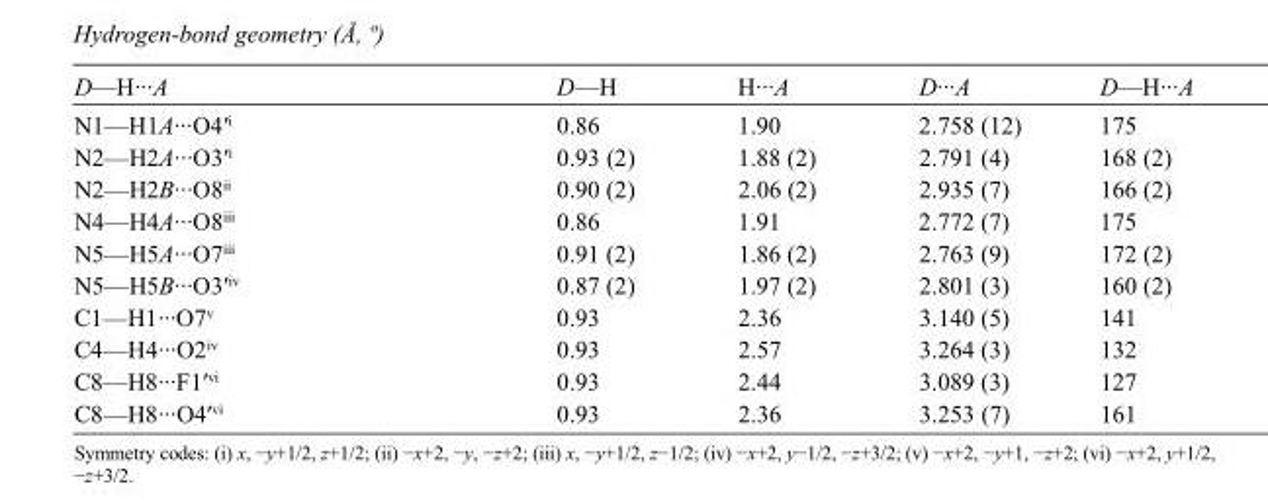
<table><tbody><tr><td>D—H···A</td><td>D—H</td><td>H···A</td><td>D···A</td><td>D—H···A</td></tr><tr><td>N1—H1A···O4′<sup>i</sup></td><td>0.86</td><td>1.90</td><td>2.758 (12)</td><td>175</td></tr><tr><td>N2—H2A···O3′<sup>i</sup></td><td>0.93 (2)</td><td>1.88 (2)</td><td>2.791 (4)</td><td>168 (2)</td></tr><tr><td>N2—H2B···O8<sup>ii</sup></td><td>0.90 (2)</td><td>2.06 (2)</td><td>2.935 (7)</td><td>166 (2)</td></tr><tr><td>N4—H4A···O8<sup>iii</sup></td><td>0.86</td><td>1.91</td><td>2.772 (7)</td><td>175</td></tr><tr><td>N5—H5A···O7<sup>iii</sup></td><td>0.91 (2)</td><td>1.86 (2)</td><td>2.763 (9)</td><td>172 (2)</td></tr><tr><td>N5—H5B···O3′<sup>iv</sup></td><td>0.87 (2)</td><td>1.97 (2)</td><td>2.801 (3)</td><td>160 (2)</td></tr><tr><td>C1—H1···O7<sup>v</sup></td><td>0.93</td><td>2.36</td><td>3.140 (5)</td><td>141</td></tr><tr><td>C4—H4···O2<sup>iv</sup></td><td>0.93</td><td>2.57</td><td>3.264 (3)</td><td>132</td></tr><tr><td>C8—H8···F1′<sup>vi</sup></td><td>0.93</td><td>2.44</td><td>3.089 (3)</td><td>127</td></tr><tr><td>C8—H8···O4′<sup>vi</sup></td><td>0.93</td><td>2.36</td><td>3.253 (7)</td><td>161</td></tr></tbody></table>